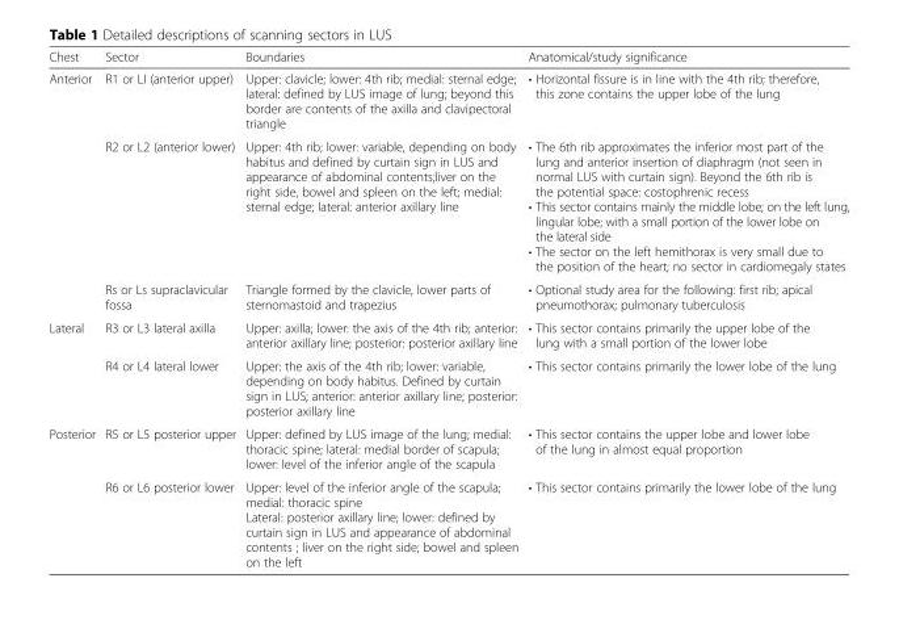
<table><thead><tr><td>Chest</td><td>Sector</td><td>Boundaries</td><td>Anatomical/study significance</td></tr></thead><tbody><tr><td rowspan="3">Anterior</td><td>R1 or LI (anterior upper)</td><td>Upper: clavicle; lower: 4th rib; medial: sternal edge; lateral: defined by LUS image of lung; beyond this border are contents of the axilla and clavipectoral triangle</td><td>• Horizontal fissure is in line with the 4th rib; therefore, this zone contains the upper lobe of the lung</td></tr><tr><td>R2 or L2 (anterior lower)</td><td>Upper: 4th rib; lower: variable, depending on body habitus and defined by curtain sign in LUS and appearance of abdominal contents;liver on the right side, bowel and spleen on the left; medial: sternal edge; lateral: anterior axillary line</td><td>• The 6th rib approximates the inferior most part of the lung and anterior insertion of diaphragm (not seen in normal LUS with curtain sign). Beyond the 6th rib is the potential space: costophrenic recess • This sector contains mainly the middle lobe; on the left lung, lingular lobe; with a small portion of the lower lobe on the lateral side • The sector on the left hemithorax is very small due to the position of the heart; no sector in cardiomegaly states</td></tr><tr><td>Rs or Ls supraclavicular fossa</td><td>Triangle formed by the clavicle, lower parts of sternomastoid and trapezius</td><td>• Optional study area for the following: first rib; apical pneumothorax; pulmonary tuberculosis</td></tr><tr><td rowspan="2">Lateral</td><td>R3 or L3 lateral axilla</td><td>Upper: axilla; lower: the axis of the 4th rib; anterior: anterior axillary line; posterior: posterior axillary line</td><td>• This sector contains primarily the upper lobe of the lung with a small portion of the lower lobe</td></tr><tr><td>R4 or L4 lateral lower</td><td>Upper: the axis of the 4th rib; lower: variable, depending on body habitus. Defined by curtain sign in LUS; anterior: anterior axillary line; posterior: posterior axillary line</td><td>• This sector contains primarily the lower lobe of the lung</td></tr><tr><td rowspan="2">Posterior</td><td>R5 or L5 posterior upper</td><td>Upper: defined by LUS image of the lung; medial: thoracic spine; lateral: medial border of scapula; lower: level of the inferior angle of the scapula</td><td>• This sector contains the upper lobe and lower lobe of the lung in almost equal proportion</td></tr><tr><td>R6 or L6 posterior lower</td><td>Upper: level of the inferior angle of the scapula; medial: thoracic spine Lateral: posterior axillary line; lower: defined by curtain sign in LUS and appearance of abdominal contents ; liver on the right side; bowel and spleen on the left</td><td>• This sector contains primarily the lower lobe of the lung</td></tr></tbody></table>